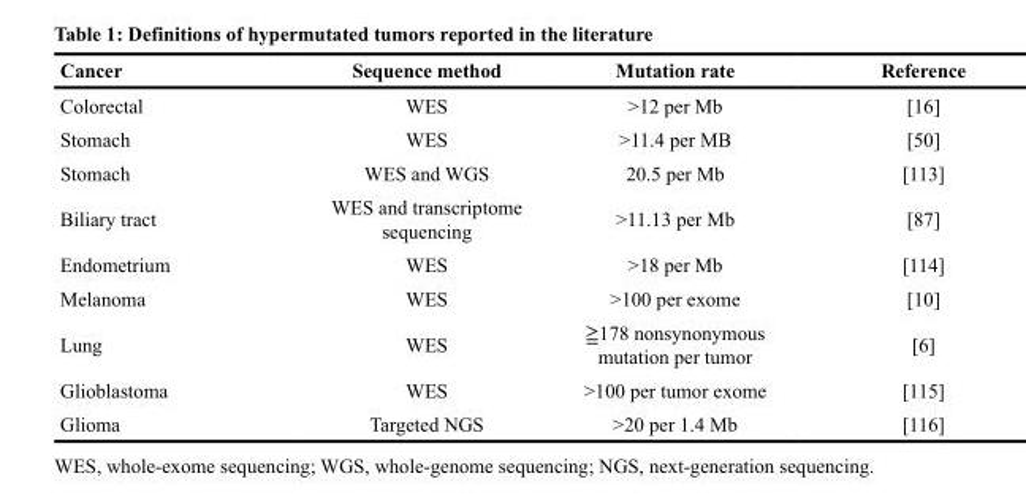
<table><thead><tr><td>Cancer</td><td>Sequence method</td><td>Mutation rate</td><td>Reference</td></tr></thead><tbody><tr><td>Colorectal</td><td>WES</td><td>&gt;12 per Mb</td><td>[16]</td></tr><tr><td>Stomach</td><td>WES</td><td>&gt;11.4 per MB</td><td>[50]</td></tr><tr><td>Stomach</td><td>WES and WGS</td><td>20.5 per Mb</td><td>[113]</td></tr><tr><td>Biliary tract</td><td>WES and transcriptome sequencing</td><td>&gt;11.13 per Mb</td><td>[87]</td></tr><tr><td>Endometrium</td><td>WES</td><td>&gt;18 per Mb</td><td>[114]</td></tr><tr><td>Melanoma</td><td>WES</td><td>&gt;100 per exome</td><td>[10]</td></tr><tr><td>Lung</td><td>WES</td><td>≧178 nonsynonymous mutation per tumor</td><td>[6]</td></tr><tr><td>Glioblastoma</td><td>WES</td><td>&gt;100 per tumor exome</td><td>[115]</td></tr><tr><td>Glioma</td><td>Targeted NGS</td><td>&gt;20 per 1.4 Mb</td><td>[116]</td></tr></tbody></table>